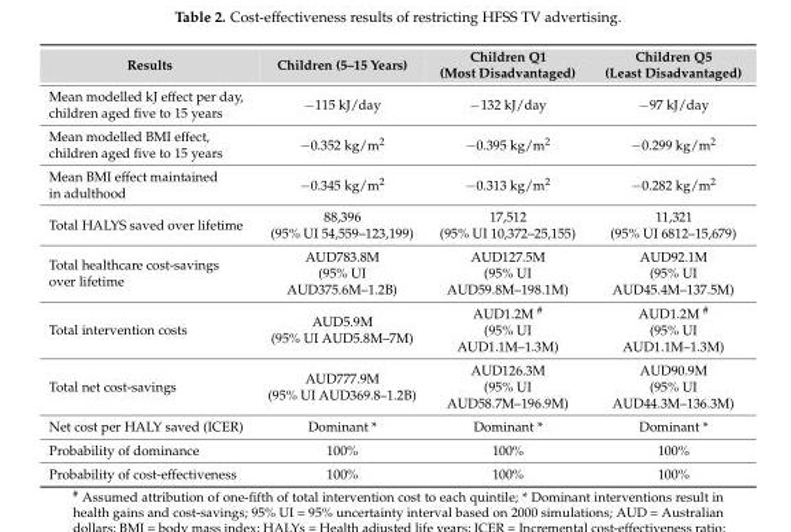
<table><thead><tr><td>Results</td><td>Children (5–15 Years)</td><td>Children Q1 (Most Disadvantaged)</td><td>Children Q5 (Least Disadvantaged)</td></tr></thead><tbody><tr><td>Mean modelled kJ effect per day, children aged five to 15 years</td><td>−115 kJ/day</td><td>−132 kJ/day</td><td>−97 kJ/day</td></tr><tr><td>Mean modelled BMI effect, children aged five to 15 years</td><td>−0.352 kg/m<sup>2</sup></td><td>−0.395 kg/m<sup>2</sup></td><td>−0.299 kg/m<sup>2</sup></td></tr><tr><td>Mean BMI effect maintained in adulthood</td><td>−0.345 kg/m<sup>2</sup></td><td>−0.313 kg/m<sup>2</sup></td><td>−0.282 kg/m<sup>2</sup></td></tr><tr><td>Total HALYS saved over lifetime</td><td>88,396 (95% UI 54,559–123,199)</td><td>17,512 (95% UI 10,372–25,155)</td><td>11,321 (95% UI 6812–15,679)</td></tr><tr><td>Total healthcare cost-savings over lifetime</td><td>AUD783.8M (95% UI AUD375.6M–1.2B)</td><td>AUD127.5M (95% UI AUD59.8M–198.1M)</td><td>AUD92.1M (95% UI AUD45.4M–137.5M)</td></tr><tr><td>Total intervention costs</td><td>AUD5.9M (95% UI AUD5.8M–7M)</td><td>AUD1.2M <sup>#</sup> (95% UI AUD1.1M–1.3M)</td><td>AUD1.2M <sup>#</sup> (95% UI AUD1.1M–1.3M)</td></tr><tr><td>Total net cost-savings</td><td>AUD777.9M (95% UI AUD369.8–1.2B)</td><td>AUD126.3M (95% UI AUD58.7M–196.9M)</td><td>AUD90.9M (95% UI AUD44.3M–136.3M)</td></tr><tr><td>Net cost per HALY saved (ICER)</td><td>Dominant *</td><td>Dominant *</td><td>Dominant *</td></tr><tr><td>Probability of dominance</td><td>100%</td><td>100%</td><td>100%</td></tr><tr><td>Probability of cost-effectiveness</td><td>100%</td><td>100%</td><td>100%</td></tr></tbody></table>